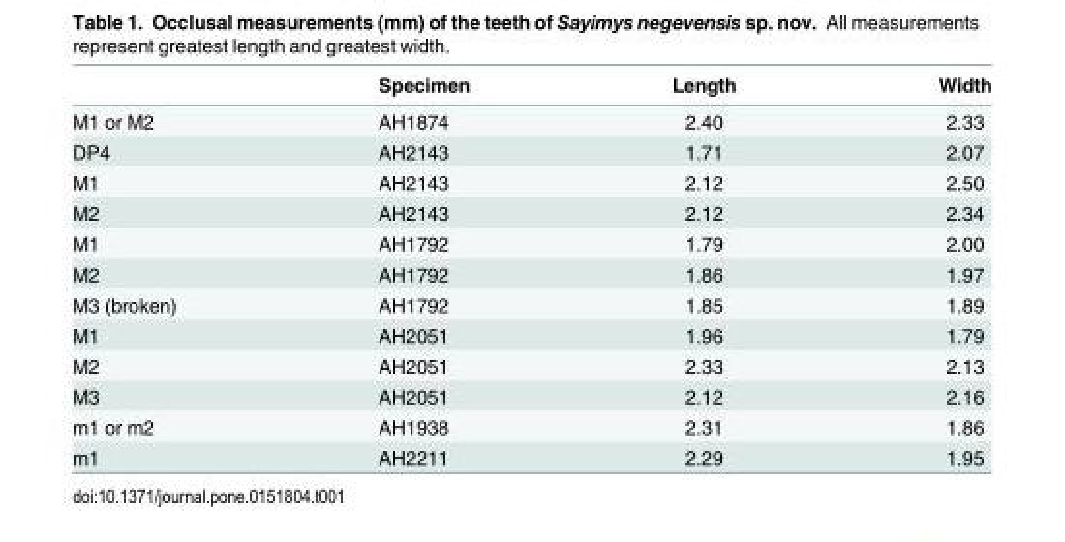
<table><thead><tr><td></td><td>Specimen</td><td>Length</td><td>Width</td></tr></thead><tbody><tr><td>M1 or M2</td><td>AH1874</td><td>2.40</td><td>2.33</td></tr><tr><td>DP4</td><td>AH2143</td><td>1.71</td><td>2.07</td></tr><tr><td>M1</td><td>AH2143</td><td>2.12</td><td>2.50</td></tr><tr><td>M2</td><td>AH2143</td><td>2.12</td><td>2.34</td></tr><tr><td>M1</td><td>AH1792</td><td>1.79</td><td>2.00</td></tr><tr><td>M2</td><td>AH1792</td><td>1.86</td><td>1.97</td></tr><tr><td>M3 (broken)</td><td>AH1792</td><td>1.85</td><td>1.89</td></tr><tr><td>M1</td><td>AH2051</td><td>1.96</td><td>1.79</td></tr><tr><td>M2</td><td>AH2051</td><td>2.33</td><td>2.13</td></tr><tr><td>M3</td><td>AH2051</td><td>2.12</td><td>2.16</td></tr><tr><td>m1 or m2</td><td>AH1938</td><td>2.31</td><td>1.86</td></tr><tr><td>m1</td><td>AH2211</td><td>2.29</td><td>1.95</td></tr></tbody></table>